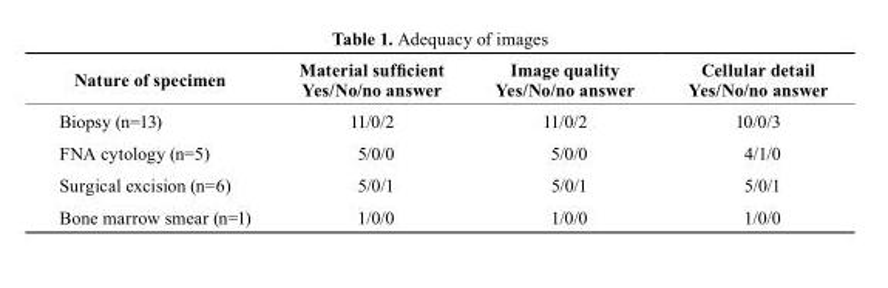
<table><thead><tr><td rowspan="2">nature of specimen</td><td rowspan="2">Material sufficient Yes/no/no answer</td><td rowspan="2">Image quality Yes/no/no answer</td><td rowspan="2">cellular detail Yes/no/no answer</td></tr><tr></tr></thead><tbody><tr><td>Biopsy (n=13)</td><td>11/0/2</td><td>11/0/2</td><td>10/0/3</td></tr><tr><td>FNA cytology (n=5)</td><td>5/0/0</td><td>5/0/0</td><td>4/1/0</td></tr><tr><td>Surgical excision (n=6)</td><td>5/0/1</td><td>5/0/1</td><td>5/0/1</td></tr><tr><td>Bone marrow smear (n=1)</td><td>1/0/0</td><td>1/0/0</td><td>1/0/0</td></tr></tbody></table>